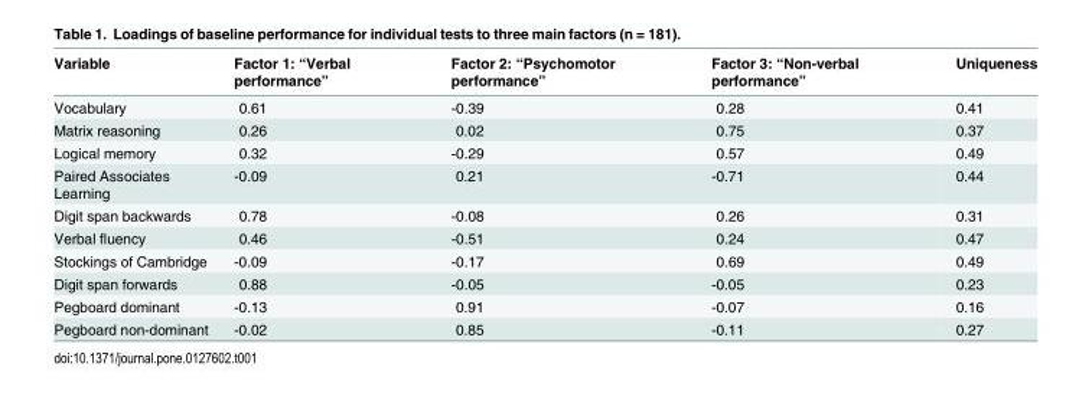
<table><thead><tr><td>Variable</td><td>Factor 1: “Verbal performance”</td><td>Factor 2: “Psychomotor performance”</td><td>Factor 3: “Non-verbal performance”</td><td>Uniqueness</td></tr></thead><tbody><tr><td>Vocabulary</td><td>0.61</td><td>-0.39</td><td>0.28</td><td>0.41</td></tr><tr><td>Matrix reasoning</td><td>0.26</td><td>0.02</td><td>0.75</td><td>0.37</td></tr><tr><td>Logical memory</td><td>0.32</td><td>-0.29</td><td>0.57</td><td>0.49</td></tr><tr><td>Paired Associates Learning</td><td>-0.09</td><td>0.21</td><td>-0.71</td><td>0.44</td></tr><tr><td>Digit span backwards</td><td>0.78</td><td>-0.08</td><td>0.26</td><td>0.31</td></tr><tr><td>Verbal fluency</td><td>0.46</td><td>-0.51</td><td>0.24</td><td>0.47</td></tr><tr><td>Stockings of Cambridge</td><td>-0.09</td><td>-0.17</td><td>0.69</td><td>0.49</td></tr><tr><td>Digit span forwards</td><td>0.88</td><td>-0.05</td><td>-0.05</td><td>0.23</td></tr><tr><td>Pegboard dominant</td><td>-0.13</td><td>0.91</td><td>-0.07</td><td>0.16</td></tr><tr><td>Pegboard non-dominant</td><td>-0.02</td><td>0.85</td><td>-0.11</td><td>0.27</td></tr></tbody></table>